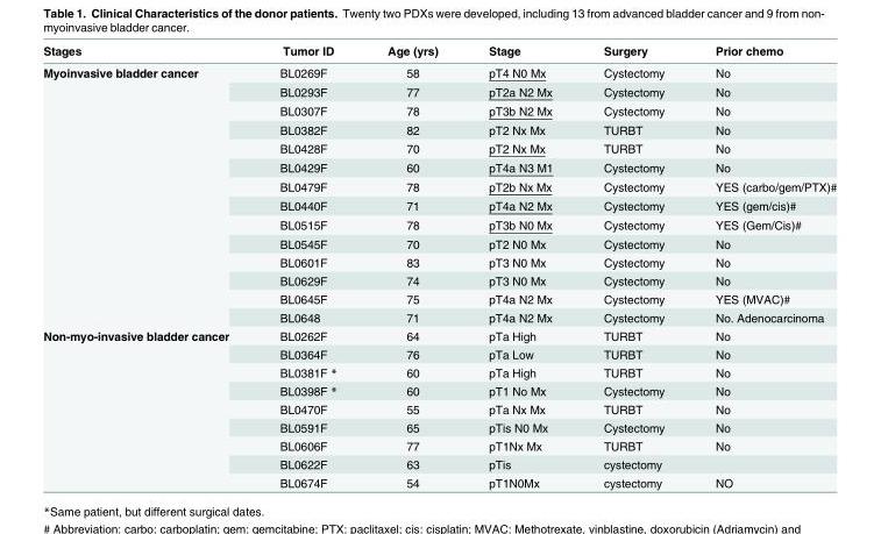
<table><thead><tr><td>Stages</td><td>Tumor ID</td><td>Age (yrs)</td><td>Stage</td><td>Surgery</td><td>Prior chemo</td></tr></thead><tbody><tr><td rowspan="14">Myoinvasive bladder cancer</td><td>BL0269F</td><td>58</td><td>pT4 N0 Mx</td><td>Cystectomy</td><td>No</td></tr><tr><td>BL0293F</td><td>77</td><td>pT2a N2 Mx</td><td>Cystectomy</td><td>No</td></tr><tr><td>BL0307F</td><td>78</td><td>pT3b N2 Mx</td><td>Cystectomy</td><td>No</td></tr><tr><td>BL0382F</td><td>82</td><td>pT2 Nx Mx</td><td>TURBT</td><td>No</td></tr><tr><td>BL0428F</td><td>70</td><td>pT2 Nx Mx</td><td>TURBT</td><td>No</td></tr><tr><td>BL0429F</td><td>60</td><td>pT4a N3 M1</td><td>Cystectomy</td><td>No</td></tr><tr><td>BL0479F</td><td>78</td><td>pT2b Nx Mx</td><td>Cystectomy</td><td>YES (carbo/gem/PTX)#</td></tr><tr><td>BL0440F</td><td>71</td><td>pT4a N2 Mx</td><td>Cystectomy</td><td>YES (gem/cis)#</td></tr><tr><td>BL0515F</td><td>78</td><td>pT3b N0 Mx</td><td>Cystectomy</td><td>YES (Gem/Cis)#</td></tr><tr><td>BL0545F</td><td>70</td><td>pT2 N0 Mx</td><td>Cystectomy</td><td>No</td></tr><tr><td>BL0601F</td><td>83</td><td>pT3 N0 Mx</td><td>Cystectomy</td><td>No</td></tr><tr><td>BL0629F</td><td>74</td><td>pT3 N0 Mx</td><td>Cystectomy</td><td>No</td></tr><tr><td>BL0645F</td><td>75</td><td>pT4a N2 Mx</td><td>Cystectomy</td><td>YES (MVAC)#</td></tr><tr><td>BL0648</td><td>71</td><td>pT4a N2 Mx</td><td>Cystectomy</td><td>No. Adenocarcinoma</td></tr><tr><td rowspan="9">Non-myo-invasive bladder cancer</td><td>BL0262F</td><td>64</td><td>pTa High</td><td>TURBT</td><td>No</td></tr><tr><td>BL0364F</td><td>76</td><td>pTa Low</td><td>TURBT</td><td>No</td></tr><tr><td>BL0381F *</td><td>60</td><td>pTa High</td><td>TURBT</td><td>No</td></tr><tr><td>BL0398F *</td><td>60</td><td>pT1 No Mx</td><td>Cystectomy</td><td>No</td></tr><tr><td>BL0470F</td><td>55</td><td>pTa Nx Mx</td><td>TURBT</td><td>No</td></tr><tr><td>BL0591F</td><td>65</td><td>pTis N0 Mx</td><td>Cystectomy</td><td>No</td></tr><tr><td>BL0606F</td><td>77</td><td>pT1Nx Mx</td><td>TURBT</td><td>No</td></tr><tr><td>BL0622F</td><td>63</td><td>pTis</td><td>cystectomy</td><td></td></tr><tr><td>BL0674F</td><td>54</td><td>pT1N0Mx</td><td>cystectomy</td><td>NO</td></tr></tbody></table>